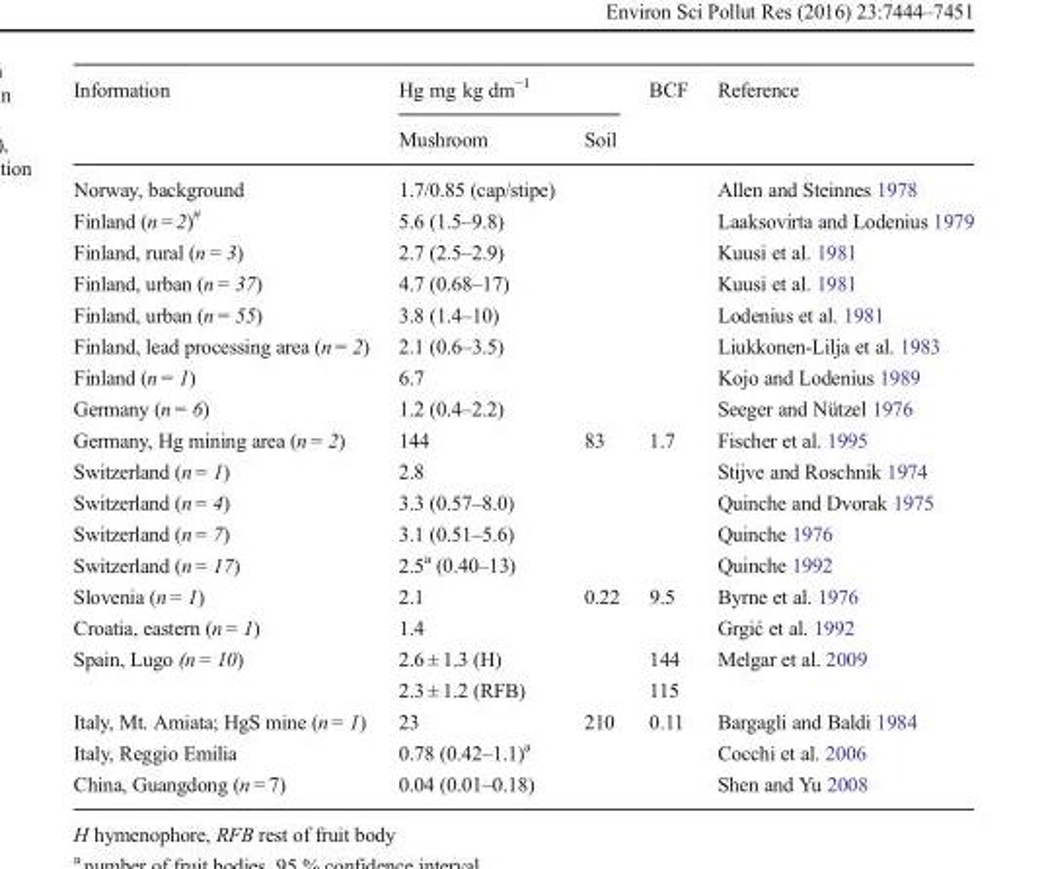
<table><thead><tr><td rowspan="2">Information</td><td colspan="2">Hg mg kg dm<sup>−1</sup></td><td rowspan="2">BCF</td><td rowspan="2">Reference</td></tr><tr><td>Mushroom</td><td>Soil</td></tr></thead><tbody><tr><td>Norway, background</td><td>1.7/0.85 (cap/stipe)</td><td></td><td></td><td>Allen and Steinnes 1978</td></tr><tr><td>Finland (n = 2)<sup>#</sup></td><td>5.6 (1.5–9.8)</td><td></td><td></td><td>Laaksovirta and Lodenius 1979</td></tr><tr><td>Finland, rural (n = 3)</td><td>2.7 (2.5–2.9)</td><td></td><td></td><td>Kuusi et al. 1981</td></tr><tr><td>Finland, urban (n = 37)</td><td>4.7 (0.68–17)</td><td></td><td></td><td>Kuusi et al. 1981</td></tr><tr><td>Finland, urban (n = 55)</td><td>3.8 (1.4–10)</td><td></td><td></td><td>Lodenius et al. 1981</td></tr><tr><td>Finland, lead processing area (n = 2)</td><td>2.1 (0.6–3.5)</td><td></td><td></td><td>Liukkonen-Lilja et al. 1983</td></tr><tr><td>Finland (n = 1)</td><td>6.7</td><td></td><td></td><td>Kojo and Lodenius 1989</td></tr><tr><td>Germany (n = 6)</td><td>1.2 (0.4–2.2)</td><td></td><td></td><td>Seeger and Nützel 1976</td></tr><tr><td>Germany, Hg mining area (n = 2)</td><td>144</td><td>83</td><td>1.7</td><td>Fischer et al. 1995</td></tr><tr><td>Switzerland (n = 1)</td><td>2.8</td><td></td><td></td><td>Stijve and Roschnik 1974</td></tr><tr><td>Switzerland (n = 4)</td><td>3.3 (0.57–8.0)</td><td></td><td></td><td>Quinche and Dvorak 1975</td></tr><tr><td>Switzerland (n = 7)</td><td>3.1 (0.51–5.6)</td><td></td><td></td><td>Quinche 1976</td></tr><tr><td>Switzerland (n = 17)</td><td>2.5<sup>a</sup> (0.40–13)</td><td></td><td></td><td>Quinche 1992</td></tr><tr><td>Slovenia (n = 1)</td><td>2.1</td><td>0.22</td><td>9.5</td><td>Byrne et al. 1976</td></tr><tr><td>Croatia, eastern (n = 1)</td><td>1.4</td><td></td><td></td><td>Grgić et al. 1992</td></tr><tr><td rowspan="2">Spain, Lugo (n = 10)</td><td>2.6 ± 1.3 (H)</td><td></td><td>144</td><td>Melgar et al. 2009</td></tr><tr><td>2.3 ± 1.2 (RFB)</td><td></td><td>115</td><td></td></tr><tr><td>Italy, Mt. Amiata; HgS mine (n = 1)</td><td>23</td><td>210</td><td>0.11</td><td>Bargagli and Baldi 1984</td></tr><tr><td>Italy, Reggio Emilia</td><td>0.78 (0.42–1.1)<sup>a</sup></td><td></td><td></td><td>Cocchi et al. 2006</td></tr><tr><td>China, Guangdong (n = 7)</td><td>0.04 (0.01–0.18)</td><td></td><td></td><td>Shen and Yu 2008</td></tr></tbody></table>